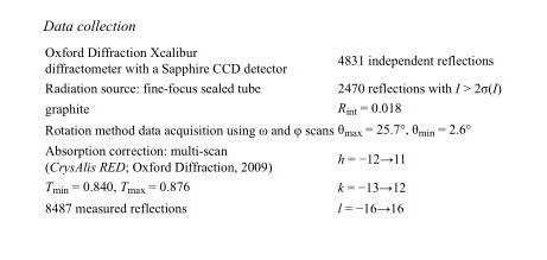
<table><tbody><tr><td>Oxford Diffraction Xcalibur diffractometer with a Sapphire CCD detector</td><td>4831 independent reflections</td></tr><tr><td>Radiation source: fine-focus sealed tube</td><td>2470 reflections with I &gt; 2σ(I)</td></tr><tr><td>graphite</td><td>R<sub>int</sub> = 0.018</td></tr><tr><td>Rotation method data acquisition using ω and φ scans</td><td>θ<sub>max</sub> = 25.7°, θ<sub>min</sub> = 2.6°</td></tr><tr><td>Absorption correction: multi-scan (CrysAlis RED; Oxford Diffraction, 2009)</td><td>h = −12→11</td></tr><tr><td>T<sub>min</sub> = 0.840, T<sub>max</sub> = 0.876</td><td>k = −13→12</td></tr><tr><td>8487 measured reflections</td><td>l = −16→16</td></tr></tbody></table>